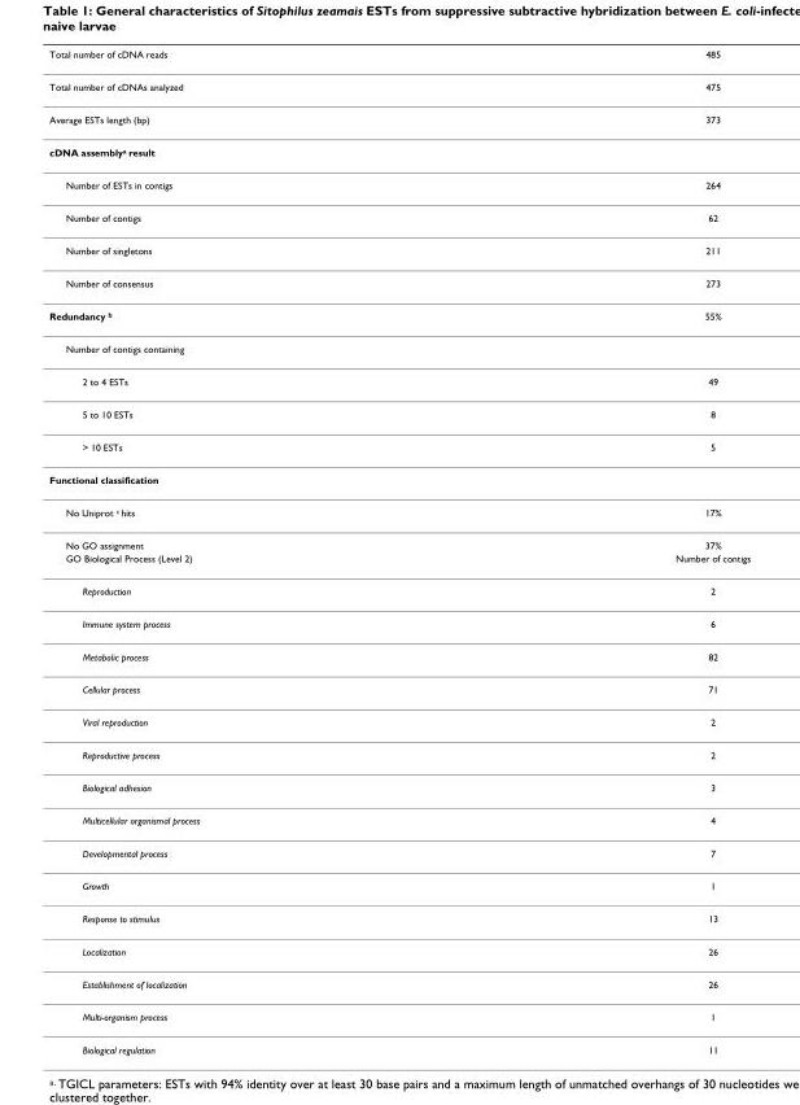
<table><thead><tr><td>Total number of cDNA reads</td><td>485</td></tr></thead><tbody><tr><td>Total number of cDNAs analyzed</td><td>475</td></tr><tr><td>Average ESTs length (bp)</td><td>373</td></tr><tr><td colspan="2">cDNA assembly<sup>a</sup> result</td></tr><tr><td>Number of ESTs in contigs</td><td>264</td></tr><tr><td>Number of contigs</td><td>62</td></tr><tr><td>Number of singletons</td><td>211</td></tr><tr><td>Number of consensus</td><td>273</td></tr><tr><td>Redundancy <sup>b</sup></td><td>55%</td></tr><tr><td colspan="2">Number of contigs containing</td></tr><tr><td>2 to 4 ESTs</td><td>49</td></tr><tr><td>5 to 10 ESTs</td><td>8</td></tr><tr><td>&gt; 10 ESTs</td><td>5</td></tr><tr><td colspan="2">Functional classification</td></tr><tr><td>No Uniprot <sup>c</sup> hits</td><td>17%</td></tr><tr><td>No GO assignment</td><td>37%</td></tr><tr><td>GO Biological Process (Level 2)</td><td>Number of contigs</td></tr><tr><td>Reproduction</td><td>2</td></tr><tr><td>Immune system process</td><td>6</td></tr><tr><td>Metabolic process</td><td>82</td></tr><tr><td>Cellular process</td><td>71</td></tr><tr><td>Viral reproduction</td><td>2</td></tr><tr><td>Reproductive process</td><td>2</td></tr><tr><td>Biological adhesion</td><td>3</td></tr><tr><td>Multicellular organismal process</td><td>4</td></tr><tr><td>Developmental process</td><td>7</td></tr><tr><td>Growth</td><td>1</td></tr><tr><td>Response to stimulus</td><td>13</td></tr><tr><td>Localization</td><td>26</td></tr><tr><td>Establishment of localization</td><td>26</td></tr><tr><td>Multi-organism process</td><td>1</td></tr><tr><td>Biological regulation</td><td>11</td></tr></tbody></table>